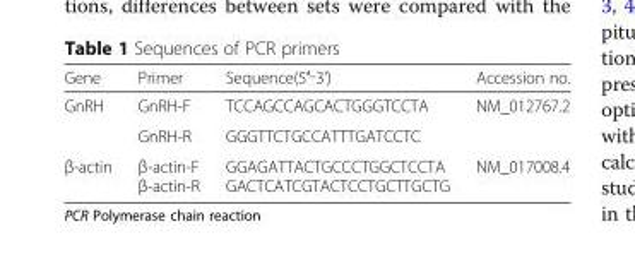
<table><thead><tr><td>Gene</td><td>Primer</td><td>Sequence(5′<sup>_</sup>3’)</td><td>Accession no.</td></tr></thead><tbody><tr><td rowspan="2">GnRH</td><td>GnRH-F</td><td>TCCAGCCAGCACTGGGTCCTA</td><td>NM_012767.2</td></tr><tr><td>GnRH-R</td><td>GGGTTCTGCCATTTGATCCTC</td><td></td></tr><tr><td>β-actin</td><td>β-actin-F β-actin-R</td><td>GGAGATTACTGCCCTGGCTCCTA GACTCATCGTACTCCTGCTTGCTG</td><td>NM_017008.4</td></tr></tbody></table>